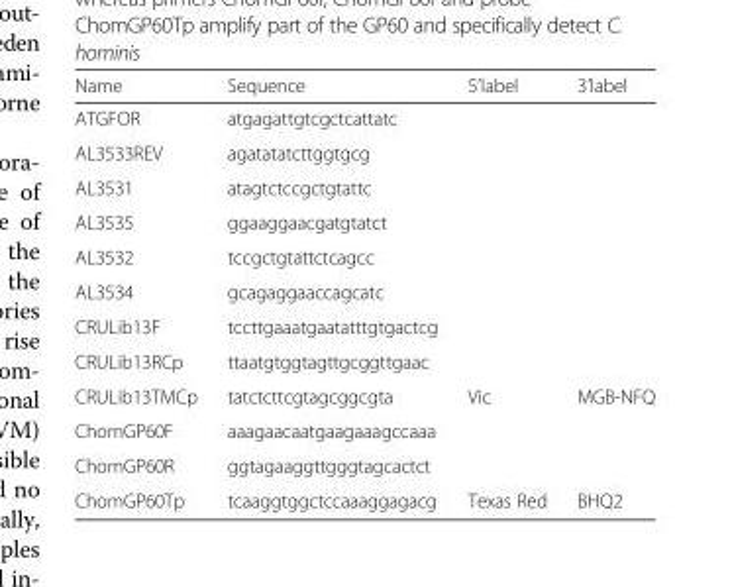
<table><thead><tr><td>Name</td><td>Sequence</td><td>5’label</td><td>3’label</td></tr></thead><tbody><tr><td>ATGFOR</td><td>atgagattgtcgctcattatc</td><td></td><td></td></tr><tr><td>AL3533REV</td><td>agatatatcttggtgcg</td><td></td><td></td></tr><tr><td>AL3531</td><td>atagtctccgctgtattc</td><td></td><td></td></tr><tr><td>AL3535</td><td>ggaaggaacgatgtatct</td><td></td><td></td></tr><tr><td>AL3532</td><td>tccgctgtattctcagcc</td><td></td><td></td></tr><tr><td>AL3534</td><td>gcagaggaaccagcatc</td><td></td><td></td></tr><tr><td>CRULib13F</td><td>tccttgaaatgaatatttgtgactcg</td><td></td><td></td></tr><tr><td>CRULib13RCp</td><td>ttaatgtggtagttgcggttgaac</td><td></td><td></td></tr><tr><td>CRULib13TMCp</td><td>tatctcttcgtagcggcgta</td><td>Vic</td><td>MGB-NFQ</td></tr><tr><td>ChomGP60F</td><td>aaagaacaatgaagaaagccaaa</td><td></td><td></td></tr><tr><td>ChomGP60R</td><td>ggtagaaggttgggtagcactct</td><td></td><td></td></tr><tr><td>ChomGP60Tp</td><td>tcaaggtggctccaaaggagacg</td><td>Texas Red</td><td>BHQ2</td></tr></tbody></table>